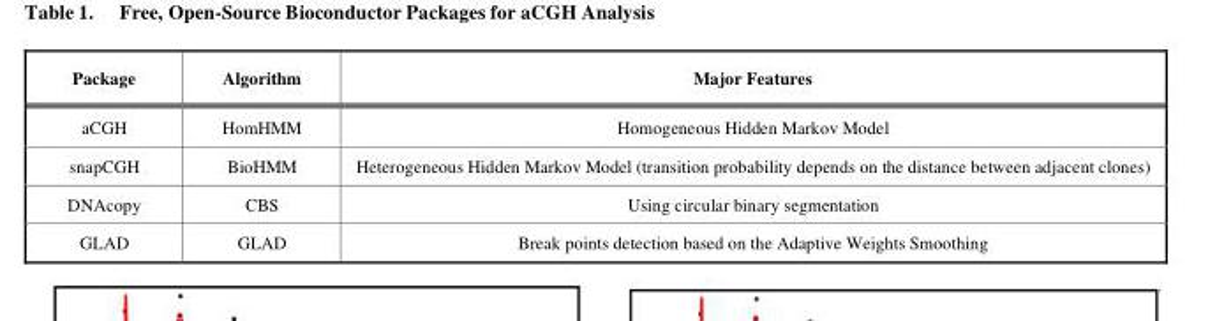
<table><thead><tr><td>Package</td><td>Algorithm</td><td>Major Features</td></tr></thead><tbody><tr><td>aCGH</td><td>HomHMM</td><td>Homogeneous Hidden Markov Model</td></tr><tr><td>snapCGH</td><td>BioHMM</td><td>Heterogeneous Hidden Markov Model (transition probability depends on the distance between adjacent clones)</td></tr><tr><td>DNAcopy</td><td>CBS</td><td>Using circular binary segmentation</td></tr><tr><td>GLAD</td><td>GLAD</td><td>Break points detection based on the Adaptive Weights Smoothing</td></tr></tbody></table>